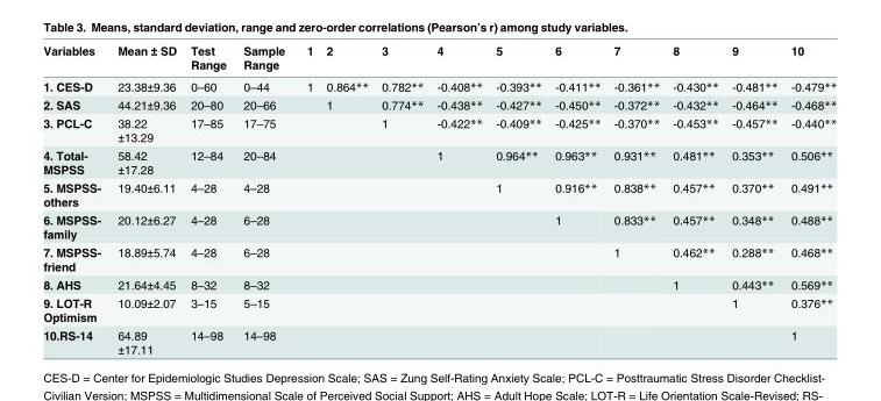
<table><thead><tr><td>Variables</td><td>Mean ± SD</td><td>Test Range</td><td>Sample Range</td><td>1</td><td>2</td><td>3</td><td>4</td><td>5</td><td>6</td><td>7</td><td>8</td><td>9</td><td>10</td></tr></thead><tbody><tr><td>1. CES-D</td><td>23.38±9.36</td><td>0–60</td><td>0–44</td><td>1</td><td>0.864**</td><td>0.782**</td><td>-0.408**</td><td>-0.393**</td><td>-0.411**</td><td>-0.361**</td><td>-0.430**</td><td>-0.481**</td><td>-0.479**</td></tr><tr><td>2. SAS</td><td>44.21±9.36</td><td>20–80</td><td>20–66</td><td></td><td>1</td><td>0.774**</td><td>-0.438**</td><td>-0.427**</td><td>-0.450**</td><td>-0.372**</td><td>-0.432**</td><td>-0.464**</td><td>-0.468**</td></tr><tr><td>3. PCL-C</td><td>38.22 ±13.29</td><td>17–85</td><td>17–75</td><td></td><td></td><td>1</td><td>-0.422**</td><td>-0.409**</td><td>-0.425**</td><td>-0.370**</td><td>-0.453**</td><td>-0.457**</td><td>-0.440**</td></tr><tr><td>4. Total- MSPSS</td><td>58.42 ±17.28</td><td>12–84</td><td>20–84</td><td></td><td></td><td></td><td>1</td><td>0.964**</td><td>0.963**</td><td>0.931**</td><td>0.481**</td><td>0.353**</td><td>0.506**</td></tr><tr><td>5. MSPSS- others</td><td>19.40±6.11</td><td>4–28</td><td>4–28</td><td></td><td></td><td></td><td></td><td>1</td><td>0.916**</td><td>0.838**</td><td>0.457**</td><td>0.370**</td><td>0.491**</td></tr><tr><td>6. MSPSS- family</td><td>20.12±6.27</td><td>4–28</td><td>6–28</td><td></td><td></td><td></td><td></td><td></td><td>1</td><td>0.833**</td><td>0.457**</td><td>0.348**</td><td>0.488**</td></tr><tr><td>7. MSPSS- friend</td><td>18.89±5.74</td><td>4–28</td><td>6–28</td><td></td><td></td><td></td><td></td><td></td><td></td><td>1</td><td>0.462**</td><td>0.288**</td><td>0.468**</td></tr><tr><td>8. AHS</td><td>21.64±4.45</td><td>8–32</td><td>8–32</td><td></td><td></td><td></td><td></td><td></td><td></td><td></td><td>1</td><td>0.443**</td><td>0.569**</td></tr><tr><td>9. LOT-R Optimism</td><td>10.09±2.07</td><td>3–15</td><td>5–15</td><td></td><td></td><td></td><td></td><td></td><td></td><td></td><td></td><td>1</td><td>0.376**</td></tr><tr><td>10.RS-14</td><td>64.89 ±17.11</td><td>14–98</td><td>14–98</td><td></td><td></td><td></td><td></td><td></td><td></td><td></td><td></td><td></td><td>1</td></tr></tbody></table>